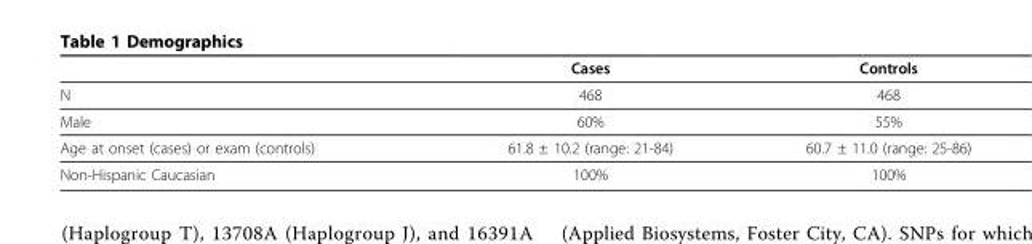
<table><thead><tr><td></td><td>Cases</td><td>Controls</td></tr></thead><tbody><tr><td>N</td><td>468</td><td>468</td></tr><tr><td>Male</td><td>60%</td><td>55%</td></tr><tr><td>Age at onset (cases) or exam (controls)</td><td>61.8 ± 10.2 (range: 21-84)</td><td>60.7 ± 11.0 (range: 25-86)</td></tr><tr><td>Non-Hispanic Caucasian</td><td>100%</td><td>100%</td></tr></tbody></table>